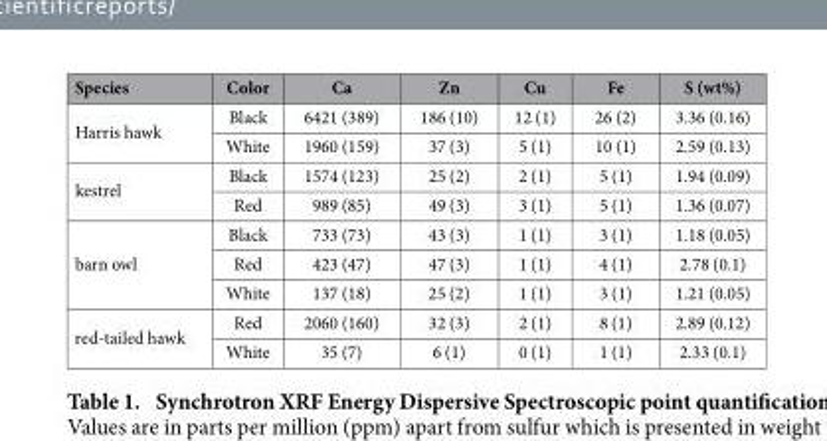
<table><thead><tr><td>Species</td><td>Color</td><td>Ca</td><td>Zn</td><td>Cu</td><td>Fe</td><td>S (wt%)</td></tr></thead><tbody><tr><td rowspan="2">Harris hawk</td><td>Black</td><td>6421 (389)</td><td>186 (10)</td><td>12 (1)</td><td>26 (2)</td><td>3.36 (0.16)</td></tr><tr><td>White</td><td>1960 (159)</td><td>37 (3)</td><td>5 (1)</td><td>10 (1)</td><td>2.59 (0.13)</td></tr><tr><td rowspan="2">kestrel</td><td>Black</td><td>1574 (123)</td><td>25 (2)</td><td>2 (1)</td><td>5 (1)</td><td>1.94 (0.09)</td></tr><tr><td>Red</td><td>989 (85)</td><td>49 (3)</td><td>3 (1)</td><td>5 (1)</td><td>1.36 (0.07)</td></tr><tr><td rowspan="3">barn owl</td><td>Black</td><td>733 (73)</td><td>43 (3)</td><td>1 (1)</td><td>3 (1)</td><td>1.18 (0.05)</td></tr><tr><td>Red</td><td>423 (47)</td><td>47 (3)</td><td>1 (1)</td><td>4 (1)</td><td>2.78 (0.1)</td></tr><tr><td>White</td><td>137 (18)</td><td>25 (2)</td><td>1 (1)</td><td>3 (1)</td><td>1.21 (0.05)</td></tr><tr><td rowspan="2">red-tailed hawk</td><td>Red</td><td>2060 (160)</td><td>32 (3)</td><td>2 (1)</td><td>8 (1)</td><td>2.89 (0.12)</td></tr><tr><td>White</td><td>35 (7)</td><td>6 (1)</td><td>0 (1)</td><td>1 (1)</td><td>2.33 (0.1)</td></tr></tbody></table>